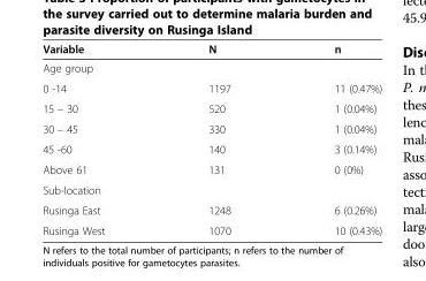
<table><thead><tr><td>Variable</td><td>N</td><td>n</td></tr></thead><tbody><tr><td colspan="3">Age group</td></tr><tr><td>0 -14</td><td>1197</td><td>11 (0.47%)</td></tr><tr><td>15 – 30</td><td>520</td><td>1 (0.04%)</td></tr><tr><td>30 – 45</td><td>330</td><td>1 (0.04%)</td></tr><tr><td>45 -60</td><td>140</td><td>3 (0.14%)</td></tr><tr><td>Above 61</td><td>131</td><td>0 (0%)</td></tr><tr><td colspan="3">Sub-location</td></tr><tr><td>Rusinga East</td><td>1248</td><td>6 (0.26%)</td></tr><tr><td>Rusinga West</td><td>1070</td><td>10 (0.43%)</td></tr></tbody></table>